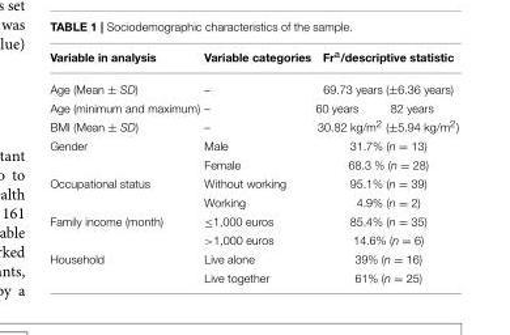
<table><thead><tr><td rowspan="3">Variable in analysis Age (Mean ± SD) Age (minimum and maximum)</td><td rowspan="3">Variable categories – –</td><td rowspan="2" colspan="2">Fr<sup>a</sup>/descriptive statistic 69.73 years (±6.36 years)</td></tr><tr></tr><tr><td>60 years</td><td>82 years</td></tr></thead><tbody><tr><td>BMI (Mean ± SD)</td><td>–</td><td colspan="2">30.82 kg/m<sup>2</sup> (±5.94 kg/m<sup>2</sup>)</td></tr><tr><td rowspan="2">Gender</td><td>Male</td><td colspan="2">31.7% (n = 13)</td></tr><tr><td>Female</td><td colspan="2">68.3 % (n = 28)</td></tr><tr><td rowspan="2">Occupational status</td><td>Without working</td><td colspan="2">95.1% (n = 39)</td></tr><tr><td>Working</td><td colspan="2">4.9% (n = 2)</td></tr><tr><td rowspan="2">Family income (month)</td><td>≤1,000 euros</td><td colspan="2">85.4% (n = 35)</td></tr><tr><td>&gt;1,000 euros</td><td colspan="2">14.6% (n = 6)</td></tr><tr><td rowspan="2">Household</td><td>Live alone</td><td colspan="2">39% (n = 16)</td></tr><tr><td>Live together</td><td colspan="2">61% (n = 25)</td></tr></tbody></table>